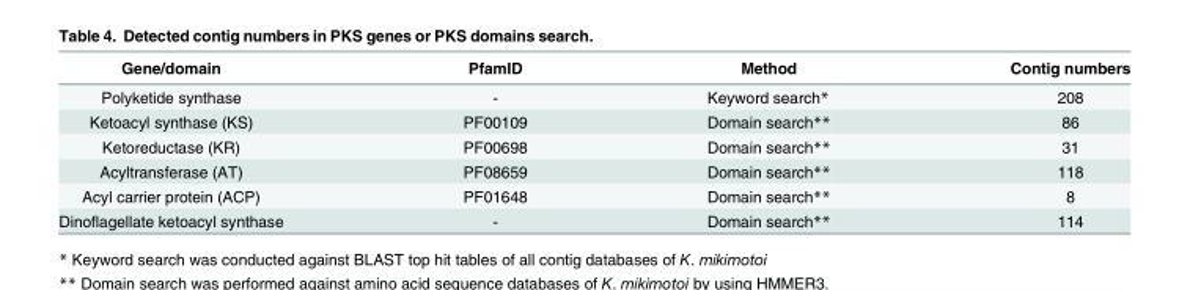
<table><thead><tr><td>Gene/domain</td><td>PfamID</td><td>Method</td><td>Contig numbers</td></tr></thead><tbody><tr><td>Polyketide synthase</td><td>-</td><td>Keyword search*</td><td>208</td></tr><tr><td>Ketoacyl synthase (KS)</td><td>PF00109</td><td>Domain search**</td><td>86</td></tr><tr><td>Ketoreductase (KR)</td><td>PF00698</td><td>Domain search**</td><td>31</td></tr><tr><td>Acyltransferase (AT)</td><td>PF08659</td><td>Domain search**</td><td>118</td></tr><tr><td>Acyl carrier protein (ACP)</td><td>PF01648</td><td>Domain search**</td><td>8</td></tr><tr><td>Dinoflagellate ketoacyl synthase</td><td>-</td><td>Domain search**</td><td>114</td></tr></tbody></table>